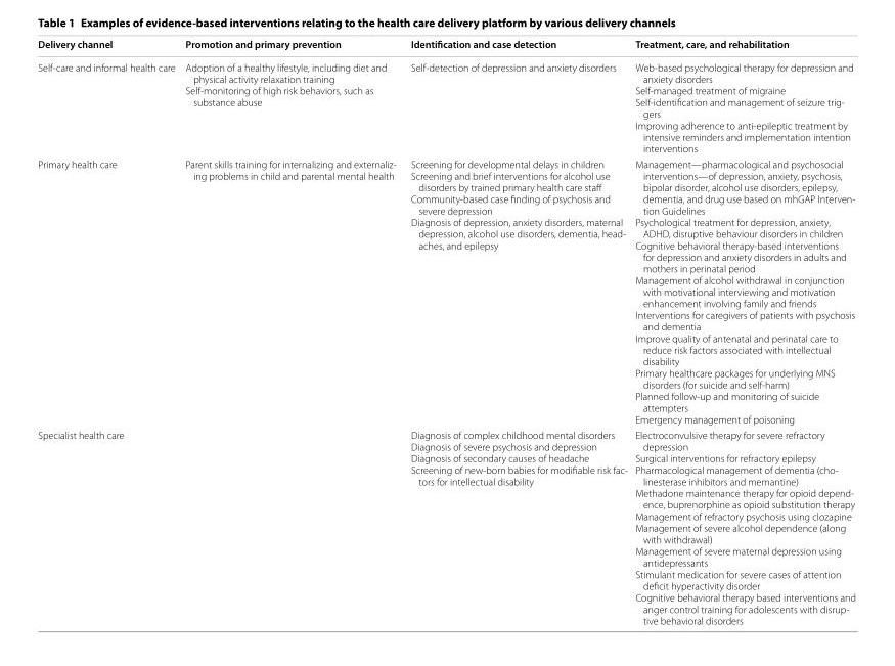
<table><thead><tr><td>Delivery channel</td><td>Promotion and primary prevention</td><td>Identification and case detection</td><td>Treatment, care, and rehabilitation</td></tr></thead><tbody><tr><td>Self-care and informal health care</td><td>Adoption of a healthy lifestyle, including diet and physical activity relaxation training Self-monitoring of high risk behaviors, such as substance abuse</td><td>Self-detection of depression and anxiety disorders</td><td>Web-based psychological therapy for depression and anxiety disorders Self-managed treatment of migraine Self-identification and management of seizure trig- gers Improving adherence to anti-epileptic treatment by intensive reminders and implementation intention interventions</td></tr><tr><td>Primary health care</td><td>Parent skills training for internalizing and externaliz- ing problems in child and parental mental health</td><td>Screening for developmental delays in children Screening and brief interventions for alcohol use disorders by trained primary health care staff Community-based case finding of psychosis and severe depression Diagnosis of depression, anxiety disorders, maternal depression, alcohol use disorders, dementia, head- aches, and epilepsy</td><td>Management—pharmacological and psychosocial interventions—of depression, anxiety, psychosis, bipolar disorder, alcohol use disorders, epilepsy, dementia, and drug use based on mhGAP Interven- tion Guidelines Psychological treatment for depression, anxiety, ADHD, disruptive behaviour disorders in children Cognitive behavioral therapy-based interventions for depression and anxiety disorders in adults and mothers in perinatal period Management of alcohol withdrawal in conjunction with motivational interviewing and motivation enhancement involving family and friends Interventions for caregivers of patients with psychosis and dementia Improve quality of antenatal and perinatal care to reduce risk factors associated with intellectual disability Primary healthcare packages for underlying MNS disorders (for suicide and self-harm) Planned follow-up and monitoring of suicide attempters Emergency management of poisoning</td></tr><tr><td>Specialist health care</td><td></td><td>Diagnosis of complex childhood mental disorders Diagnosis of severe psychosis and depression Diagnosis of secondary causes of headache Screening of new-born babies for modifiable risk fac- tors for intellectual disability</td><td>Electroconvulsive therapy for severe refractory depression Surgical interventions for refractory epilepsy Pharmacological management of dementia (cho- linesterase inhibitors and memantine) Methadone maintenance therapy for opioid depend- ence, buprenorphine as opioid substitution therapy Management of refractory psychosis using clozapine Management of severe alcohol dependence (along with withdrawal) Management of severe maternal depression using antidepressants Stimulant medication for severe cases of attention deficit hyperactivity disorder Cognitive behavioral therapy based interventions and anger control training for adolescents with disrup- tive behavioral disorders</td></tr></tbody></table>